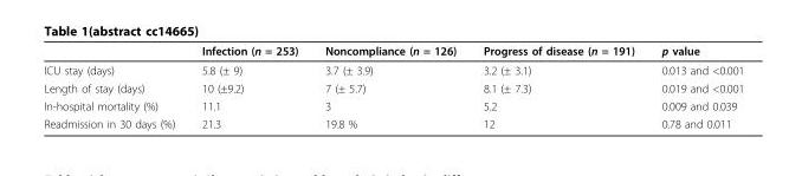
<table><thead><tr><td></td><td>Infection (n = 253)</td><td>Noncompliance (n = 126)</td><td>Progress of disease (n = 191)</td><td>p value</td></tr></thead><tbody><tr><td>ICU stay (days)</td><td>5.8 (± 9)</td><td>3.7 (± 3.9)</td><td>3.2 (± 3.1)</td><td>0.013 and &lt;0.001</td></tr><tr><td>Length of stay (days)</td><td>10 (±9.2)</td><td>7 (± 5.7)</td><td>8.1 (± 7.3)</td><td>0.019 and &lt;0.001</td></tr><tr><td>In-hospital mortality (%)</td><td>11.1</td><td>3</td><td>5.2</td><td>0.009 and 0.039</td></tr><tr><td>Readmission in 30 days (%)</td><td>21.3</td><td>19.8 %</td><td>12</td><td>0.78 and 0.011</td></tr></tbody></table>